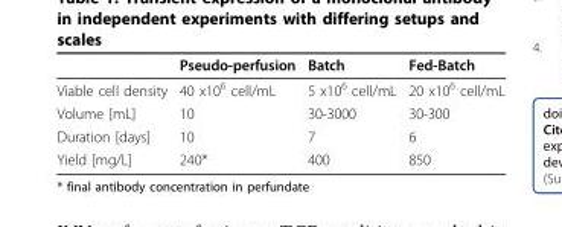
<table><thead><tr><td></td><td>Pseudo-perfusion</td><td>Batch</td><td>Fed-Batch</td></tr></thead><tbody><tr><td>Viable cell density</td><td>40 x10<sup>6</sup> cell/mL</td><td>5 x10<sup>6</sup> cell/mL</td><td>20 x10<sup>6</sup> cell/mL</td></tr><tr><td>Volume [mL]</td><td>10</td><td>30-3000</td><td>30-300</td></tr><tr><td>Duration [days]</td><td>10</td><td>7</td><td>6</td></tr><tr><td>Yield [mg/L]</td><td>240*</td><td>400</td><td>850</td></tr></tbody></table>